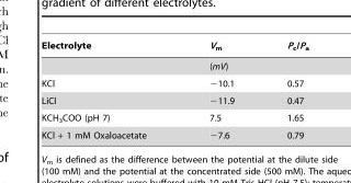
<table><thead><tr><td>Electrolyte</td><td>V<sub>m</sub></td><td>P<sub>c</sub>/P<sub>a</sub></td></tr></thead><tbody><tr><td></td><td>(mV)</td><td></td></tr><tr><td>KCl</td><td>−10.1</td><td>0.57</td></tr><tr><td>LiCl</td><td>−11.9</td><td>0.47</td></tr><tr><td>KCH<sub>3</sub>COO (pH 7)</td><td>7.5</td><td>1.65</td></tr><tr><td>KCl + 1 mM Oxaloacetate</td><td>−7.6</td><td>0.79</td></tr></tbody></table>